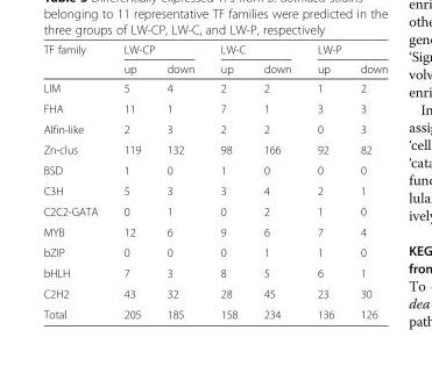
<table><thead><tr><td rowspan="2">TF family</td><td colspan="2">LW-CP</td><td colspan="2">LW-C</td><td colspan="2">LW-P</td></tr><tr><td>up</td><td>down</td><td>up</td><td>down</td><td>up</td><td>down</td></tr></thead><tbody><tr><td>LIM</td><td>5</td><td>4</td><td>2</td><td>2</td><td>1</td><td>2</td></tr><tr><td>FHA</td><td>11</td><td>1</td><td>7</td><td>1</td><td>3</td><td>3</td></tr><tr><td>Alfin-like</td><td>2</td><td>3</td><td>2</td><td>2</td><td>0</td><td>3</td></tr><tr><td>Zn-clus</td><td>119</td><td>132</td><td>98</td><td>166</td><td>92</td><td>82</td></tr><tr><td>BSD</td><td>1</td><td>0</td><td>1</td><td>0</td><td>0</td><td>0</td></tr><tr><td>C3H</td><td>5</td><td>3</td><td>3</td><td>4</td><td>2</td><td>1</td></tr><tr><td>C2C2-GATA</td><td>0</td><td>1</td><td>0</td><td>2</td><td>1</td><td>0</td></tr><tr><td>MYB</td><td>12</td><td>6</td><td>9</td><td>6</td><td>7</td><td>4</td></tr><tr><td>bZIP</td><td>0</td><td>0</td><td>0</td><td>1</td><td>1</td><td>0</td></tr><tr><td>bHLH</td><td>7</td><td>3</td><td>8</td><td>5</td><td>6</td><td>1</td></tr><tr><td>C2H2</td><td>43</td><td>32</td><td>28</td><td>45</td><td>23</td><td>30</td></tr><tr><td>Total</td><td>205</td><td>185</td><td>158</td><td>234</td><td>136</td><td>126</td></tr></tbody></table>